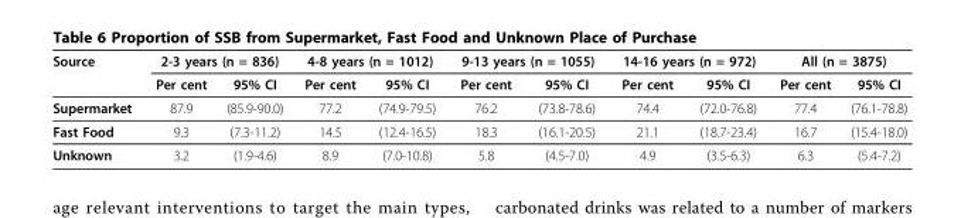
<table><thead><tr><td rowspan="2">Source</td><td colspan="2">2-3 years (n = 836)</td><td colspan="2">4-8 years (n = 1012)</td><td colspan="2">9-13 years (n = 1055)</td><td colspan="2">14-16 years (n = 972)</td><td colspan="2">All (n = 3875)</td></tr><tr><td>Per cent</td><td>95% CI</td><td>Per cent</td><td>95% CI</td><td>Per cent</td><td>95% CI</td><td>Per cent</td><td>95% CI</td><td>Per cent</td><td>95% CI</td></tr></thead><tbody><tr><td>Supermarket</td><td>87.9</td><td>(85.9-90.0)</td><td>77.2</td><td>(74.9-79.5)</td><td>76.2</td><td>(73.8-78.6)</td><td>74.4</td><td>(72.0-76.8)</td><td>77.4</td><td>(76.1-78.8)</td></tr><tr><td>Fast Food</td><td>9.3</td><td>(7.3-11.2)</td><td>14.5</td><td>(12.4-16.5)</td><td>18.3</td><td>(16.1-20.5)</td><td>21.1</td><td>(18.7-23.4)</td><td>16.7</td><td>(15.4-18.0)</td></tr><tr><td>Unknown</td><td>3.2</td><td>(1.9-4.6)</td><td>8.9</td><td>(7.0-10.8)</td><td>5.8</td><td>(4.5-7.0)</td><td>4.9</td><td>(3.5-6.3)</td><td>6.3</td><td>(5.4-7.2)</td></tr></tbody></table>